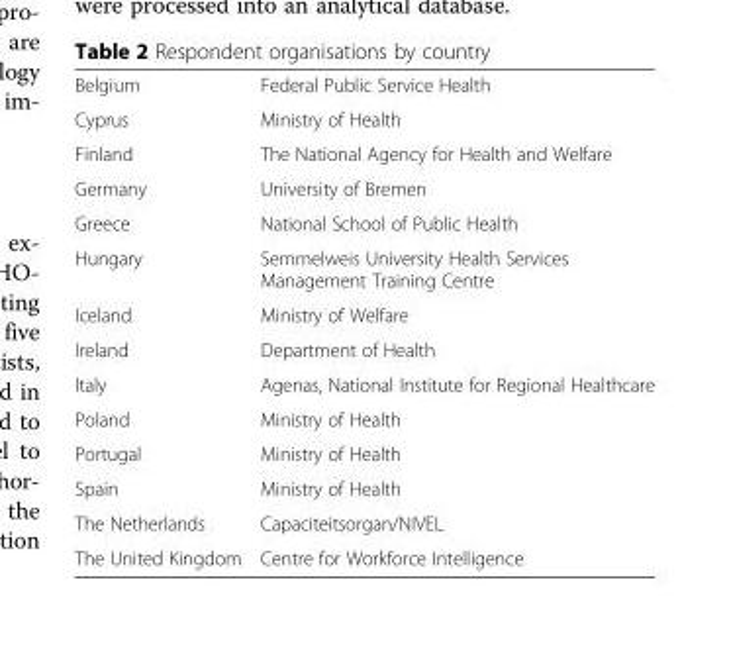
<table><tbody><tr><td>Belgium</td><td>Federal Public Service Health</td></tr><tr><td>Cyprus</td><td>Ministry of Health</td></tr><tr><td>Finland</td><td>The National Agency for Health and Welfare</td></tr><tr><td>Germany</td><td>University of Bremen</td></tr><tr><td>Greece</td><td>National School of Public Health</td></tr><tr><td>Hungary</td><td>Semmelweis University Health Services Management Training Centre</td></tr><tr><td>Iceland</td><td>Ministry of Welfare</td></tr><tr><td>Ireland</td><td>Department of Health</td></tr><tr><td>Italy</td><td>Agenas, National Institute for Regional Healthcare</td></tr><tr><td>Poland</td><td>Ministry of Health</td></tr><tr><td>Portugal</td><td>Ministry of Health</td></tr><tr><td>Spain</td><td>Ministry of Health</td></tr><tr><td>The Netherlands</td><td>Capaciteitsorgan/NIVEL</td></tr><tr><td>The United Kingdom</td><td>Centre for Workforce Intelligence</td></tr></tbody></table>